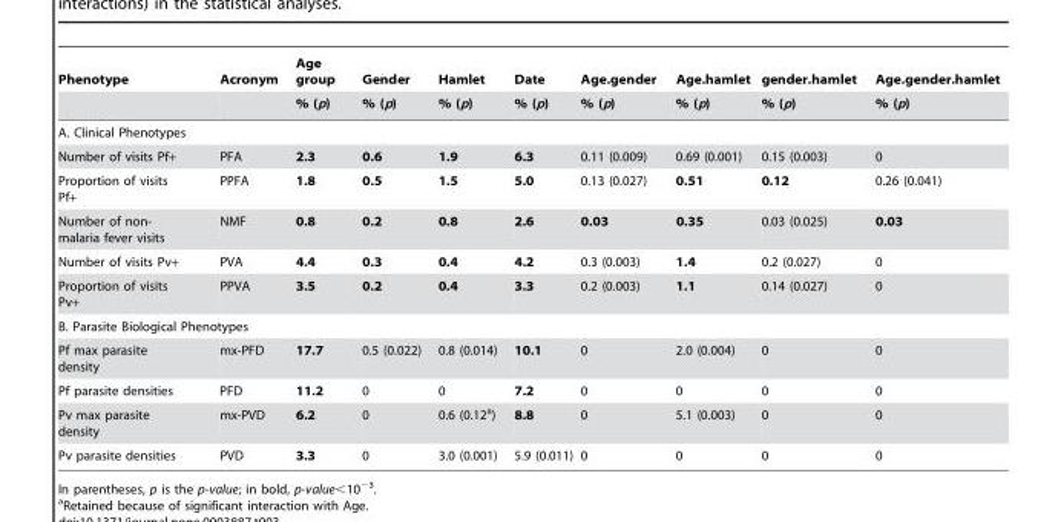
<table><thead><tr><td rowspan="2">Phenotype</td><td rowspan="2">Acronym</td><td rowspan="2">Age group % (p)</td><td rowspan="2">Gender % (p)</td><td rowspan="2">Hamlet % (p)</td><td rowspan="2">Date % (p)</td><td rowspan="2">Age.gender % (p)</td><td rowspan="2">Age.hamlet % (p)</td><td rowspan="2">gender.hamlet % (p)</td><td rowspan="2">Age.gender.hamlet % (p)</td></tr><tr></tr></thead><tbody><tr><td colspan="10">A. Clinical Phenotypes</td></tr><tr><td>Number of visits Pf+</td><td>PFA</td><td>2.3</td><td>0.6</td><td>1.9</td><td>6.3</td><td>0.11 (0.009)</td><td>0.69 (0.001)</td><td>0.15 (0.003)</td><td>0</td></tr><tr><td>Proportion of visits Pf+</td><td>PPFA</td><td>1.8</td><td>0.5</td><td>1.5</td><td>5.0</td><td>0.13 (0.027)</td><td>0.51</td><td>0.12</td><td>0.26 (0.041)</td></tr><tr><td>Number of non- malaria fever visits</td><td>NMF</td><td>0.8</td><td>0.2</td><td>0.8</td><td>2.6</td><td>0.03</td><td>0.35</td><td>0.03 (0.025)</td><td>0.03</td></tr><tr><td>Number of visits Pv+</td><td>PVA</td><td>4.4</td><td>0.3</td><td>0.4</td><td>4.2</td><td>0.3 (0.003)</td><td>1.4</td><td>0.2 (0.027)</td><td>0</td></tr><tr><td>Proportion of visits Pv+</td><td>PPVA</td><td>3.5</td><td>0.2</td><td>0.4</td><td>3.3</td><td>0.2 (0.003)</td><td>1.1</td><td>0.14 (0.027)</td><td>0</td></tr><tr><td colspan="10">B. Parasite Biological Phenotypes</td></tr><tr><td>Pf max parasite density</td><td>mx-PFD</td><td>17.7</td><td>0.5 (0.022)</td><td>0.8 (0.014)</td><td>10.1</td><td>0</td><td>2.0 (0.004)</td><td>0</td><td>0</td></tr><tr><td>Pf parasite densities</td><td>PFD</td><td>11.2</td><td>0</td><td>0</td><td>7.2</td><td>0</td><td>0</td><td>0</td><td>0</td></tr><tr><td>Pv max parasite density</td><td>mx-PVD</td><td>6.2</td><td>0</td><td>0.6 (0.12<sup>a</sup>)</td><td>8.8</td><td>0</td><td>5.1 (0.003)</td><td>0</td><td>0</td></tr><tr><td>Pv parasite densities</td><td>PVD</td><td>3.3</td><td>0</td><td>3.0 (0.001)</td><td>5.9 (0.011)</td><td>0</td><td>0</td><td>0</td><td>0</td></tr></tbody></table>